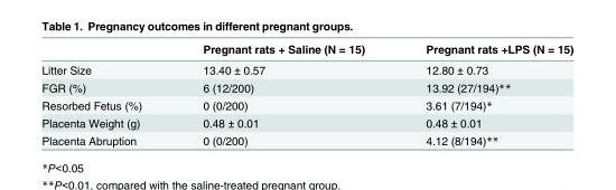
<table><thead><tr><td></td><td>Pregnant rats + Saline (N = 15)</td><td>Pregnant rats +LPS (N = 15)</td></tr></thead><tbody><tr><td>Litter Size</td><td>13.40 ± 0.57</td><td>12.80 ± 0.73</td></tr><tr><td>FGR (%)</td><td>6 (12/200)</td><td>13.92 (27/194)**</td></tr><tr><td>Resorbed Fetus (%)</td><td>0 (0/200)</td><td>3.61 (7/194)*</td></tr><tr><td>Placenta Weight (g)</td><td>0.48 ± 0.01</td><td>0.48 ± 0.01</td></tr><tr><td>Placenta Abruption</td><td>0 (0/200)</td><td>4.12 (8/194)**</td></tr></tbody></table>